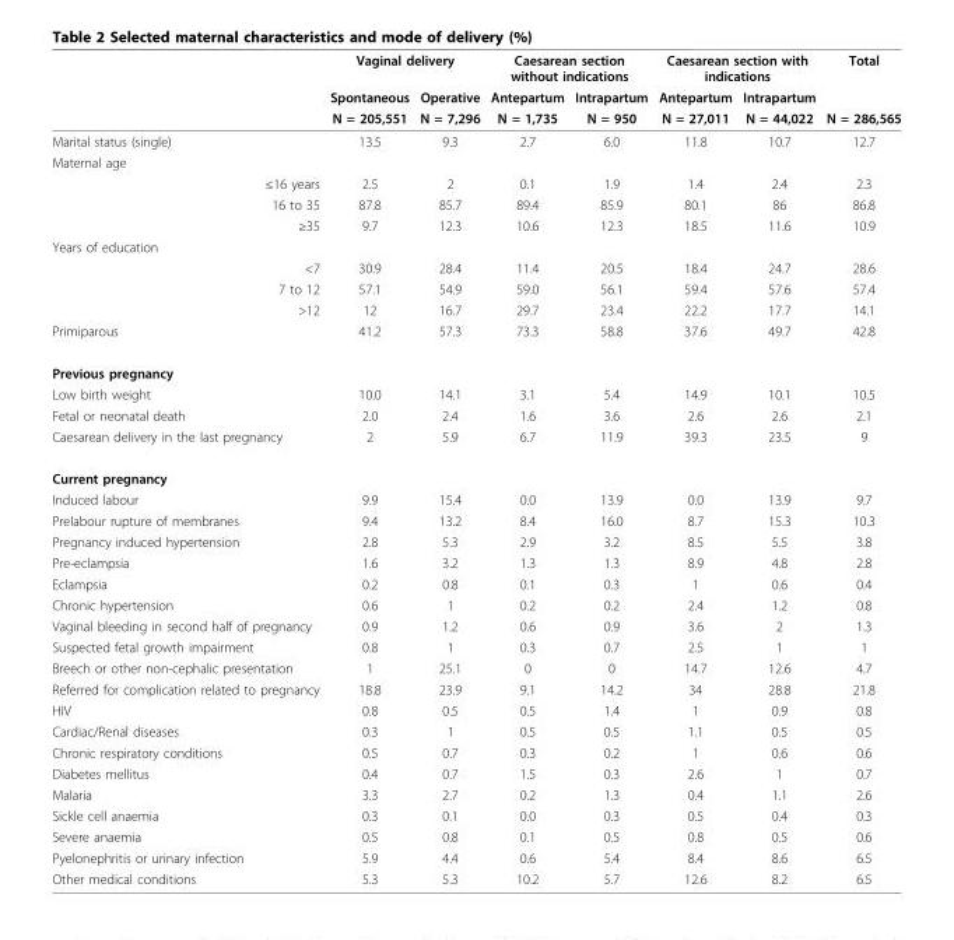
<table><thead><tr><td rowspan="3"></td><td colspan="2">Vaginal delivery</td><td colspan="2">Caesarean section without indications</td><td colspan="2">Caesarean section with indications</td><td rowspan="3">Total N = 286,565</td></tr><tr><td rowspan="2">Spontaneous N = 205,551</td><td rowspan="2">Operative N = 7,296</td><td rowspan="2">Antepartum N = 1,735</td><td rowspan="2">Intrapartum N = 950</td><td rowspan="2">Antepartum N = 27,011</td><td rowspan="2">Intrapartum N = 44,022</td></tr><tr></tr></thead><tbody><tr><td>Marital status (single)</td><td>13.5</td><td>9.3</td><td>2.7</td><td>6.0</td><td>11.8</td><td>10.7</td><td>12.7</td></tr><tr><td colspan="8">Maternal age</td></tr><tr><td>≤16 years</td><td>2.5</td><td>2</td><td>0.1</td><td>1.9</td><td>1.4</td><td>2.4</td><td>2.3</td></tr><tr><td>16 to 35</td><td>87.8</td><td>85.7</td><td>89.4</td><td>85.9</td><td>80.1</td><td>86</td><td>86.8</td></tr><tr><td>≥35</td><td>9.7</td><td>12.3</td><td>10.6</td><td>12.3</td><td>18.5</td><td>11.6</td><td>10.9</td></tr><tr><td colspan="8">Years of education</td></tr><tr><td>&lt;7</td><td>30.9</td><td>28.4</td><td>11.4</td><td>20.5</td><td>18.4</td><td>24.7</td><td>28.6</td></tr><tr><td>7 to 12</td><td>57.1</td><td>54.9</td><td>59.0</td><td>56.1</td><td>59.4</td><td>57.6</td><td>57.4</td></tr><tr><td>&gt;12</td><td>12</td><td>16.7</td><td>29.7</td><td>23.4</td><td>22.2</td><td>17.7</td><td>14.1</td></tr><tr><td>Primiparous</td><td>41.2</td><td>57.3</td><td>73.3</td><td>58.8</td><td>37.6</td><td>49.7</td><td>42.8</td></tr><tr><td colspan="8">Previous pregnancy</td></tr><tr><td>Low birth weight</td><td>10.0</td><td>14.1</td><td>3.1</td><td>5.4</td><td>14.9</td><td>10.1</td><td>10.5</td></tr><tr><td>Fetal or neonatal death</td><td>2.0</td><td>2.4</td><td>1.6</td><td>3.6</td><td>2.6</td><td>2.6</td><td>2.1</td></tr><tr><td>Caesarean delivery in the last pregnancy</td><td>2</td><td>5.9</td><td>6.7</td><td>11.9</td><td>39.3</td><td>23.5</td><td>9</td></tr><tr><td colspan="8">Current pregnancy</td></tr><tr><td>Induced labour</td><td>9.9</td><td>15.4</td><td>0.0</td><td>13.9</td><td>0.0</td><td>13.9</td><td>9.7</td></tr><tr><td>Prelabour rupture of membranes</td><td>9.4</td><td>13.2</td><td>8.4</td><td>16.0</td><td>8.7</td><td>15.3</td><td>10.3</td></tr><tr><td>Pregnancy induced hypertension</td><td>2.8</td><td>5.3</td><td>2.9</td><td>3.2</td><td>8.5</td><td>5.5</td><td>3.8</td></tr><tr><td>Pre-eclampsia</td><td>1.6</td><td>3.2</td><td>1.3</td><td>1.3</td><td>8.9</td><td>4.8</td><td>2.8</td></tr><tr><td>Eclampsia</td><td>0.2</td><td>0.8</td><td>0.1</td><td>0.3</td><td>1</td><td>0.6</td><td>0.4</td></tr><tr><td>Chronic hypertension</td><td>0.6</td><td>1</td><td>0.2</td><td>0.2</td><td>2.4</td><td>1.2</td><td>0.8</td></tr><tr><td>Vaginal bleeding in second half of pregnancy</td><td>0.9</td><td>1.2</td><td>0.6</td><td>0.9</td><td>3.6</td><td>2</td><td>1.3</td></tr><tr><td>Suspected fetal growth impairment</td><td>0.8</td><td>1</td><td>0.3</td><td>0.7</td><td>2.5</td><td>1</td><td>1</td></tr><tr><td>Breech or other non-cephalic presentation</td><td>1</td><td>25.1</td><td>0</td><td>0</td><td>14.7</td><td>12.6</td><td>4.7</td></tr><tr><td>Referred for complication related to pregnancy</td><td>18.8</td><td>23.9</td><td>9.1</td><td>14.2</td><td>34</td><td>28.8</td><td>21.8</td></tr><tr><td>HIV</td><td>0.8</td><td>0.5</td><td>0.5</td><td>1.4</td><td>1</td><td>0.9</td><td>0.8</td></tr><tr><td>Cardiac/Renal diseases</td><td>0.3</td><td>1</td><td>0.5</td><td>0.5</td><td>1.1</td><td>0.5</td><td>0.5</td></tr><tr><td>Chronic respiratory conditions</td><td>0.5</td><td>0.7</td><td>0.3</td><td>0.2</td><td>1</td><td>0.6</td><td>0.6</td></tr><tr><td>Diabetes mellitus</td><td>0.4</td><td>0.7</td><td>1.5</td><td>0.3</td><td>2.6</td><td>1</td><td>0.7</td></tr><tr><td>Malaria</td><td>3.3</td><td>2.7</td><td>0.2</td><td>1.3</td><td>0.4</td><td>1.1</td><td>2.6</td></tr><tr><td>Sickle cell anaemia</td><td>0.3</td><td>0.1</td><td>0.0</td><td>0.3</td><td>0.5</td><td>0.4</td><td>0.3</td></tr><tr><td>Severe anaemia</td><td>0.5</td><td>0.8</td><td>0.1</td><td>0.5</td><td>0.8</td><td>0.5</td><td>0.6</td></tr><tr><td>Pyelonephritis or urinary infection</td><td>5.9</td><td>4.4</td><td>0.6</td><td>5.4</td><td>8.4</td><td>8.6</td><td>6.5</td></tr><tr><td>Other medical conditions</td><td>5.3</td><td>5.3</td><td>10.2</td><td>5.7</td><td>12.6</td><td>8.2</td><td>6.5</td></tr></tbody></table>